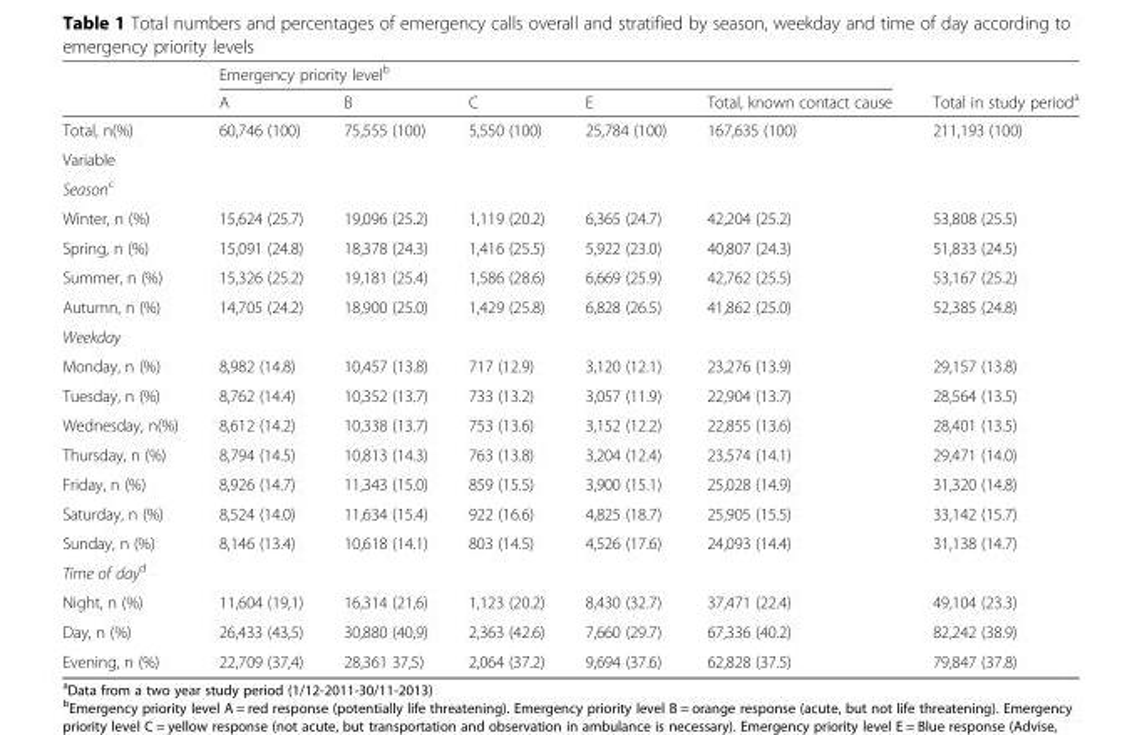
<table><thead><tr><td rowspan="2"></td><td colspan="5">Emergency priority level<sup>b</sup></td><td rowspan="2">Total in study period<sup>a</sup></td></tr><tr><td>A</td><td>B</td><td>C</td><td>E</td><td>Total, known contact cause</td></tr></thead><tbody><tr><td>Total, n(%)</td><td>60,746 (100)</td><td>75,555 (100)</td><td>5,550 (100)</td><td>25,784 (100)</td><td>167,635 (100)</td><td>211,193 (100)</td></tr><tr><td colspan="7">Variable</td></tr><tr><td colspan="7">Season<sup>c</sup></td></tr><tr><td>Winter, n (%)</td><td>15,624 (25.7)</td><td>19,096 (25.2)</td><td>1,119 (20.2)</td><td>6,365 (24.7)</td><td>42,204 (25.2)</td><td>53,808 (25.5)</td></tr><tr><td>Spring, n (%)</td><td>15,091 (24.8)</td><td>18,378 (24.3)</td><td>1,416 (25.5)</td><td>5,922 (23.0)</td><td>40,807 (24.3)</td><td>51,833 (24.5)</td></tr><tr><td>Summer, n (%)</td><td>15,326 (25.2)</td><td>19,181 (25.4)</td><td>1,586 (28.6)</td><td>6,669 (25.9)</td><td>42,762 (25.5)</td><td>53,167 (25.2)</td></tr><tr><td>Autumn, n (%)</td><td>14,705 (24.2)</td><td>18,900 (25.0)</td><td>1,429 (25.8)</td><td>6,828 (26.5)</td><td>41,862 (25.0)</td><td>52,385 (24.8)</td></tr><tr><td colspan="7">Weekday</td></tr><tr><td>Monday, n (%)</td><td>8,982 (14.8)</td><td>10,457 (13.8)</td><td>717 (12.9)</td><td>3,120 (12.1)</td><td>23,276 (13.9)</td><td>29,157 (13.8)</td></tr><tr><td>Tuesday, n (%)</td><td>8,762 (14.4)</td><td>10,352 (13.7)</td><td>733 (13.2)</td><td>3,057 (11.9)</td><td>22,904 (13.7)</td><td>28,564 (13.5)</td></tr><tr><td>Wednesday, n(%)</td><td>8,612 (14.2)</td><td>10,338 (13.7)</td><td>753 (13.6)</td><td>3,152 (12.2)</td><td>22,855 (13.6)</td><td>28,401 (13.5)</td></tr><tr><td>Thursday, n (%)</td><td>8,794 (14.5)</td><td>10,813 (14.3)</td><td>763 (13.8)</td><td>3,204 (12.4)</td><td>23,574 (14.1)</td><td>29,471 (14.0)</td></tr><tr><td>Friday, n (%)</td><td>8,926 (14.7)</td><td>11,343 (15.0)</td><td>859 (15.5)</td><td>3,900 (15.1)</td><td>25,028 (14.9)</td><td>31,320 (14.8)</td></tr><tr><td>Saturday, n (%)</td><td>8,524 (14.0)</td><td>11,634 (15.4)</td><td>922 (16.6)</td><td>4,825 (18.7)</td><td>25,905 (15.5)</td><td>33,142 (15.7)</td></tr><tr><td>Sunday, n (%)</td><td>8,146 (13.4)</td><td>10,618 (14.1)</td><td>803 (14.5)</td><td>4,526 (17.6)</td><td>24,093 (14.4)</td><td>31,138 (14.7)</td></tr><tr><td colspan="7">Time of day<sup>d</sup></td></tr><tr><td>Night, n (%)</td><td>11,604 (19,1)</td><td>16,314 (21,6)</td><td>1,123 (20.2)</td><td>8,430 (32.7)</td><td>37,471 (22.4)</td><td>49,104 (23.3)</td></tr><tr><td>Day, n (%)</td><td>26,433 (43,5)</td><td>30,880 (40,9)</td><td>2,363 (42.6)</td><td>7,660 (29.7)</td><td>67,336 (40.2)</td><td>82,242 (38.9)</td></tr><tr><td>Evening, n (%)</td><td>22,709 (37,4)</td><td>28,361 37,5)</td><td>2,064 (37.2)</td><td>9,694 (37.6)</td><td>62,828 (37.5)</td><td>79,847 (37.8)</td></tr></tbody></table>